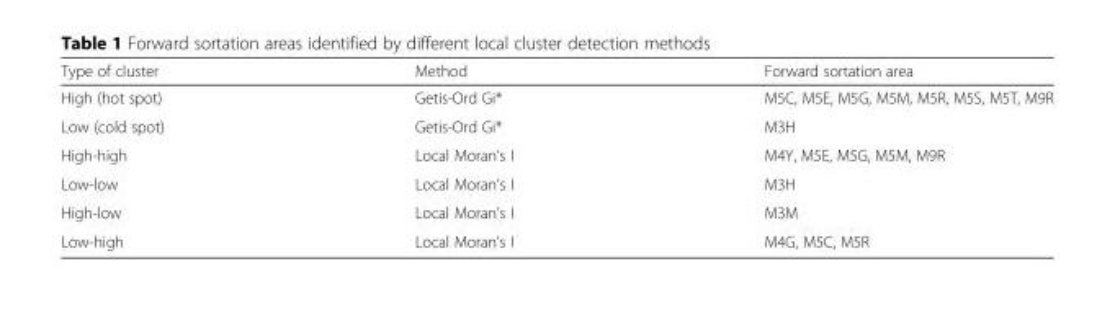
<table><thead><tr><td>Type of cluster</td><td>Method</td><td>Forward sortation area</td></tr></thead><tbody><tr><td>High (hot spot)</td><td>Getis-Ord Gi*</td><td>M5C, M5E, M5G, M5M, M5R, M5S, M5T, M9R</td></tr><tr><td>Low (cold spot)</td><td>Getis-Ord Gi*</td><td>M3H</td></tr><tr><td>High-high</td><td>Local Moran’s I</td><td>M4Y, M5E, M5G, M5M, M9R</td></tr><tr><td>Low-low</td><td>Local Moran’s I</td><td>M3H</td></tr><tr><td>High-low</td><td>Local Moran’s I</td><td>M3M</td></tr><tr><td>Low-high</td><td>Local Moran’s I</td><td>M4G, M5C, M5R</td></tr></tbody></table>